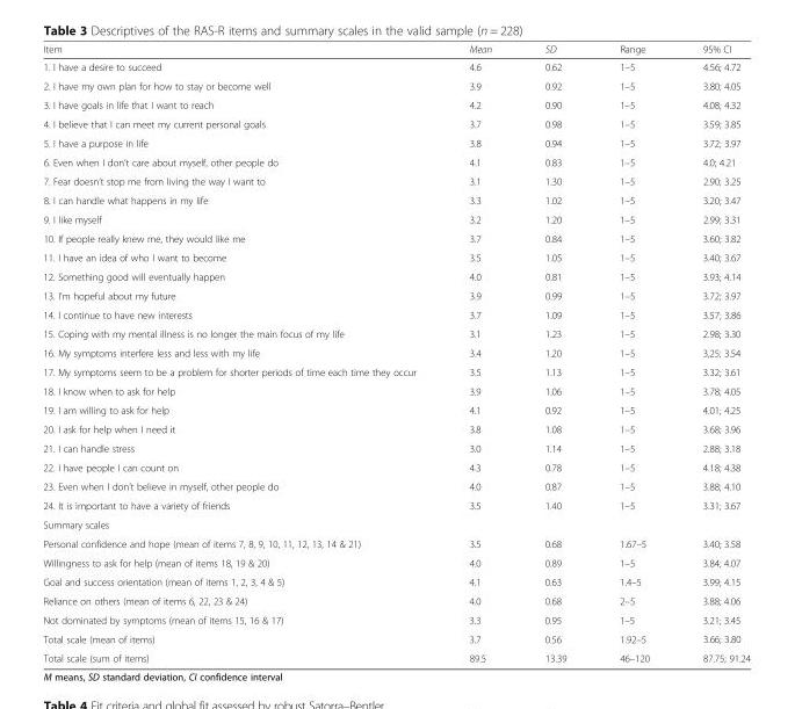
<table><thead><tr><td>Item</td><td>Mean</td><td>SD</td><td>Range</td><td>95% CI</td></tr></thead><tbody><tr><td>1. I have a desire to succeed</td><td>4.6</td><td>0.62</td><td>1–5</td><td>4.56; 4.72</td></tr><tr><td>2. I have my own plan for how to stay or become well</td><td>3.9</td><td>0.92</td><td>1–5</td><td>3.80; 4.05</td></tr><tr><td>3. I have goals in life that I want to reach</td><td>4.2</td><td>0.90</td><td>1–5</td><td>4.08; 4.32</td></tr><tr><td>4. I believe that I can meet my current personal goals</td><td>3.7</td><td>0.98</td><td>1–5</td><td>3.59; 3.85</td></tr><tr><td>5. I have a purpose in life</td><td>3.8</td><td>0.94</td><td>1–5</td><td>3.72; 3.97</td></tr><tr><td>6. Even when I don’t care about myself, other people do</td><td>4.1</td><td>0.83</td><td>1–5</td><td>4.0; 4.21</td></tr><tr><td>7. Fear doesn’t stop me from living the way I want to</td><td>3.1</td><td>1.30</td><td>1–5</td><td>2.90; 3.25</td></tr><tr><td>8. I can handle what happens in my life</td><td>3.3</td><td>1.02</td><td>1–5</td><td>3.20; 3.47</td></tr><tr><td>9. I like myself</td><td>3.2</td><td>1.20</td><td>1–5</td><td>2.99; 3.31</td></tr><tr><td>10. If people really knew me, they would like me</td><td>3.7</td><td>0.84</td><td>1–5</td><td>3.60; 3.82</td></tr><tr><td>11. I have an idea of who I want to become</td><td>3.5</td><td>1.05</td><td>1–5</td><td>3.40; 3.67</td></tr><tr><td>12. Something good will eventually happen</td><td>4.0</td><td>0.81</td><td>1–5</td><td>3.93; 4.14</td></tr><tr><td>13. I’m hopeful about my future</td><td>3.9</td><td>0.99</td><td>1–5</td><td>3.72; 3.97</td></tr><tr><td>14. I continue to have new interests</td><td>3.7</td><td>1.09</td><td>1–5</td><td>3.57; 3.86</td></tr><tr><td>15. Coping with my mental illness is no longer the main focus of my life</td><td>3.1</td><td>1.23</td><td>1–5</td><td>2.98; 3.30</td></tr><tr><td>16. My symptoms interfere less and less with my life</td><td>3.4</td><td>1.20</td><td>1–5</td><td>3,25; 3.54</td></tr><tr><td>17. My symptoms seem to be a problem for shorter periods of time each time they occur</td><td>3.5</td><td>1.13</td><td>1–5</td><td>3.32; 3.61</td></tr><tr><td>18. I know when to ask for help</td><td>3.9</td><td>1.06</td><td>1–5</td><td>3.78; 4.05</td></tr><tr><td>19. I am willing to ask for help</td><td>4.1</td><td>0.92</td><td>1–5</td><td>4.01; 4.25</td></tr><tr><td>20. I ask for help when I need it</td><td>3.8</td><td>1.08</td><td>1–5</td><td>3.68; 3.96</td></tr><tr><td>21. I can handle stress</td><td>3.0</td><td>1.14</td><td>1–5</td><td>2.88; 3.18</td></tr><tr><td>22. I have people I can count on</td><td>4.3</td><td>0.78</td><td>1–5</td><td>4.18; 4.38</td></tr><tr><td>23. Even when I don’t believe in myself, other people do</td><td>4.0</td><td>0.87</td><td>1–5</td><td>3.88; 4.10</td></tr><tr><td>24. It is important to have a variety of friends</td><td>3.5</td><td>1.40</td><td>1–5</td><td>3.31; 3.67</td></tr><tr><td colspan="5">Summary scales</td></tr><tr><td>Personal confidence and hope (mean of items 7, 8, 9, 10, 11, 12, 13, 14 &amp; 21)</td><td>3.5</td><td>0.68</td><td>1.67–5</td><td>3.40; 3.58</td></tr><tr><td>Willingness to ask for help (mean of items 18, 19 &amp; 20)</td><td>4.0</td><td>0.89</td><td>1–5</td><td>3.84; 4.07</td></tr><tr><td>Goal and success orientation (mean of items 1, 2, 3, 4 &amp; 5)</td><td>4.1</td><td>0.63</td><td>1.4–5</td><td>3.99; 4.15</td></tr><tr><td>Reliance on others (mean of items 6, 22, 23 &amp; 24)</td><td>4.0</td><td>0.68</td><td>2–5</td><td>3.88; 4.06</td></tr><tr><td>Not dominated by symptoms (mean of items 15, 16 &amp; 17)</td><td>3.3</td><td>0.95</td><td>1–5</td><td>3.21; 3.45</td></tr><tr><td>Total scale (mean of items)</td><td>3.7</td><td>0.56</td><td>1.92–5</td><td>3.66; 3.80</td></tr><tr><td>Total scale (sum of items)</td><td>89.5</td><td>13.39</td><td>46–120</td><td>87.75; 91.24</td></tr></tbody></table>